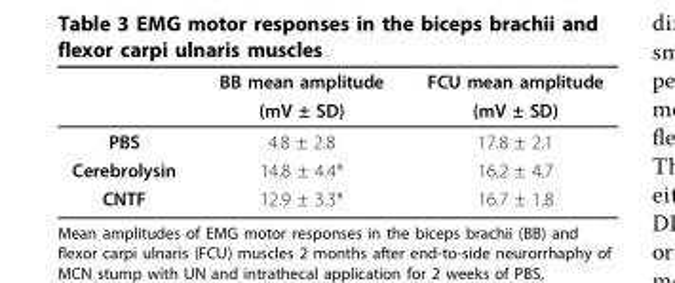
<table><thead><tr><td rowspan="2"></td><td rowspan="2">BB mean amplitude (mV ± SD)</td><td rowspan="2">FCU mean amplitude (mV ± SD)</td></tr><tr></tr></thead><tbody><tr><td>PBS</td><td>4.8 ± 2.8</td><td>17.8 ± 2.1</td></tr><tr><td>Cerebrolysin</td><td>14.8 ± 4.4*</td><td>16.2 ± 4.7</td></tr><tr><td>CNTF</td><td>12.9 ± 3.3*</td><td>16.7 ± 1.8</td></tr></tbody></table>